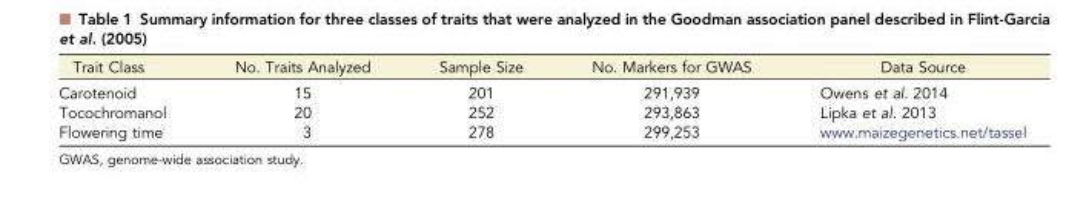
<table><thead><tr><td>Trait Class</td><td>No. Traits Analyzed</td><td>Sample Size</td><td>No. Markers for GWAS</td><td>Data Source</td></tr></thead><tbody><tr><td>Carotenoid</td><td>15</td><td>201</td><td>291,939</td><td>Owens et al. 2014</td></tr><tr><td>Tocochromanol</td><td>20</td><td>252</td><td>293,863</td><td>Lipka et al. 2013</td></tr><tr><td>Flowering time</td><td>3</td><td>278</td><td>299,253</td><td>www.maizegenetics.net/tassel</td></tr></tbody></table>